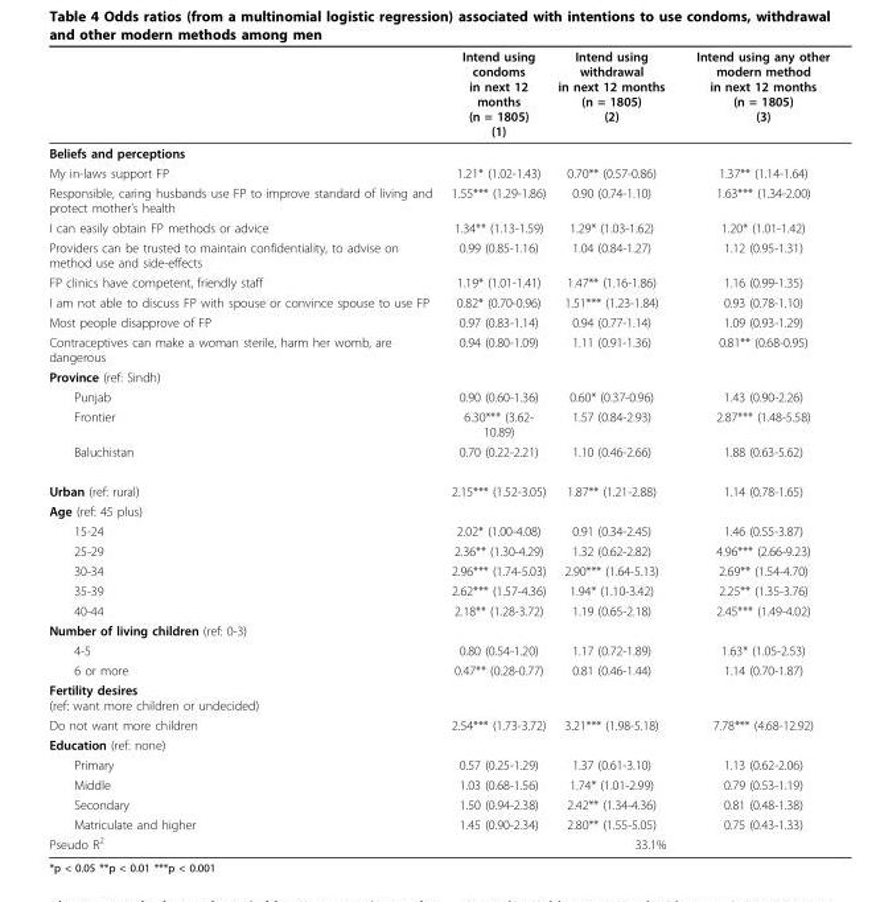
<table><thead><tr><td></td><td>Intend using condoms in next 12 months (n = 1805) (1)</td><td>Intend using withdrawal in next 12 months (n = 1805) (2)</td><td>Intend using any other modern method in next 12 months (n = 1805) (3)</td></tr></thead><tbody><tr><td colspan="4">Beliefs and perceptions</td></tr><tr><td>My in-laws support FP</td><td>1.21* (1.02-1.43)</td><td>0.70** (0.57-0.86)</td><td>1.37** (1.14-1.64)</td></tr><tr><td>Responsible, caring husbands use FP to improve standard of living and protect mother’s health</td><td>1.55*** (1.29-1.86)</td><td>0.90 (0.74-1.10)</td><td>1.63*** (1.34-2.00)</td></tr><tr><td>I can easily obtain FP methods or advice</td><td>1.34** (1.13-1.59)</td><td>1.29* (1.03-1.62)</td><td>1.20* (1.01-1.42)</td></tr><tr><td>Providers can be trusted to maintain confidentiality, to advise on method use and side-effects</td><td>0.99 (0.85-1.16)</td><td>1.04 (0.84-1.27)</td><td>1.12 (0.95-1.31)</td></tr><tr><td>FP clinics have competent, friendly staff</td><td>1.19* (1.01-1.41)</td><td>1.47** (1.16-1.86)</td><td>1.16 (0.99-1.35)</td></tr><tr><td>I am not able to discuss FP with spouse or convince spouse to use FP</td><td>0.82* (0.70-0.96)</td><td>1.51*** (1.23-1.84)</td><td>0.93 (0.78-1.10)</td></tr><tr><td>Most people disapprove of FP</td><td>0.97 (0.83-1.14)</td><td>0.94 (0.77-1.14)</td><td>1.09 (0.93-1.29)</td></tr><tr><td>Contraceptives can make a woman sterile, harm her womb, are dangerous</td><td>0.94 (0.80-1.09)</td><td>1.11 (0.91-1.36)</td><td>0.81** (0.68-0.95)</td></tr><tr><td colspan="4">Province (ref: Sindh)</td></tr><tr><td>Punjab</td><td>0.90 (0.60-1.36)</td><td>0.60* (0.37-0.96)</td><td>1.43 (0.90-2.26)</td></tr><tr><td>Frontier</td><td>6.30*** (3.62- 10.89)</td><td>1.57 (0.84-2.93)</td><td>2.87*** (1.48-5.58)</td></tr><tr><td>Baluchistan</td><td>0.70 (0.22-2.21)</td><td>1.10 (0.46-2.66)</td><td>1.88 (0.63-5.62)</td></tr><tr><td>Urban (ref: rural)</td><td>2.15*** (1.52-3.05)</td><td>1.87** (1.21-2.88)</td><td>1.14 (0.78-1.65)</td></tr><tr><td colspan="4">Age (ref: 45 plus)</td></tr><tr><td>15-24</td><td>2.02* (1.00-4.08)</td><td>0.91 (0.34-2.45)</td><td>1.46 (0.55-3.87)</td></tr><tr><td>25-29</td><td>2.36** (1.30-4.29)</td><td>1.32 (0.62-2.82)</td><td>4.96*** (2.66-9.23)</td></tr><tr><td>30-34</td><td>2.96*** (1.74-5.03)</td><td>2.90*** (1.64-5.13)</td><td>2.69** (1.54-4.70)</td></tr><tr><td>35-39</td><td>2.62*** (1.57-4.36)</td><td>1.94* (1.10-3.42)</td><td>2.25** (1.35-3.76)</td></tr><tr><td>40-44</td><td>2.18** (1.28-3.72)</td><td>1.19 (0.65-2.18)</td><td>2.45*** (1.49-4.02)</td></tr><tr><td colspan="4">Number of living children (ref: 0-3)</td></tr><tr><td>4-5</td><td>0.80 (0.54-1.20)</td><td>1.17 (0.72-1.89)</td><td>1.63* (1.05-2.53)</td></tr><tr><td>6 or more</td><td>0.47** (0.28-0.77)</td><td>0.81 (0.46-1.44)</td><td>1.14 (0.70-1.87)</td></tr><tr><td colspan="4">Fertility desires (ref: want more children or undecided)</td></tr><tr><td>Do not want more children</td><td>2.54*** (1.73-3.72)</td><td>3.21*** (1.98-5.18)</td><td>7.78*** (4.68-12.92)</td></tr><tr><td colspan="4">Education (ref: none)</td></tr><tr><td>Primary</td><td>0.57 (0.25-1.29)</td><td>1.37 (0.61-3.10)</td><td>1.13 (0.62-2.06)</td></tr><tr><td>Middle</td><td>1.03 (0.68-1.56)</td><td>1.74* (1.01-2.99)</td><td>0.79 (0.53-1.19)</td></tr><tr><td>Secondary</td><td>1.50 (0.94-2.38)</td><td>2.42** (1.34-4.36)</td><td>0.81 (0.48-1.38)</td></tr><tr><td>Matriculate and higher</td><td>1.45 (0.90-2.34)</td><td>2.80** (1.55-5.05)</td><td>0.75 (0.43-1.33)</td></tr><tr><td>Pseudo R<sup>2</sup></td><td colspan="3">33.1%</td></tr></tbody></table>